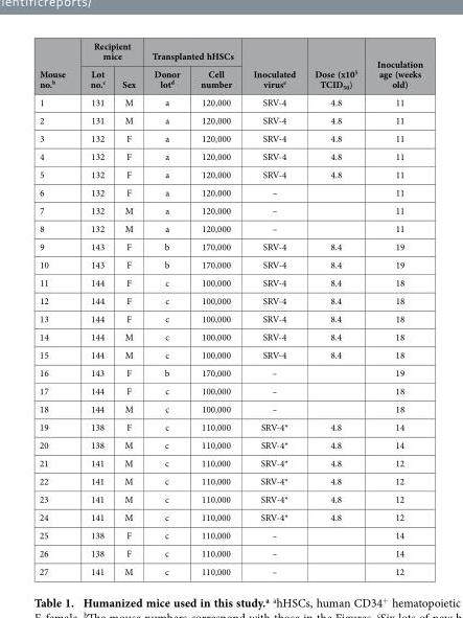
<table><thead><tr><td rowspan="2">Mouse no.<sup>b</sup></td><td colspan="2">Recipient mice</td><td colspan="2">Transplanted hHSCs</td><td rowspan="2">Inoculated virus<sup>e</sup></td><td rowspan="2">Dose (x10<sup>5</sup> TCID<sub>50</sub>)</td><td rowspan="2">Inoculation age (weeks old)</td></tr><tr><td>Lot no.<sup>c</sup></td><td>Sex</td><td>Donor lot<sup>d</sup></td><td>Cell number</td></tr></thead><tbody><tr><td>1</td><td>131</td><td>M</td><td>a</td><td>120,000</td><td>SRV-4</td><td>4.8</td><td>11</td></tr><tr><td>2</td><td>131</td><td>M</td><td>a</td><td>120,000</td><td>SRV-4</td><td>4.8</td><td>11</td></tr><tr><td>3</td><td>132</td><td>F</td><td>a</td><td>120,000</td><td>SRV-4</td><td>4.8</td><td>11</td></tr><tr><td>4</td><td>132</td><td>F</td><td>a</td><td>120,000</td><td>SRV-4</td><td>4.8</td><td>11</td></tr><tr><td>5</td><td>132</td><td>F</td><td>a</td><td>120,000</td><td>SRV-4</td><td>4.8</td><td>11</td></tr><tr><td>6</td><td>132</td><td>F</td><td>a</td><td>120,000</td><td>–</td><td></td><td>11</td></tr><tr><td>7</td><td>132</td><td>M</td><td>a</td><td>120,000</td><td>–</td><td></td><td>11</td></tr><tr><td>8</td><td>132</td><td>M</td><td>a</td><td>120,000</td><td>–</td><td></td><td>11</td></tr><tr><td>9</td><td>143</td><td>F</td><td>b</td><td>170,000</td><td>SRV-4</td><td>8.4</td><td>19</td></tr><tr><td>10</td><td>143</td><td>F</td><td>b</td><td>170,000</td><td>SRV-4</td><td>8.4</td><td>19</td></tr><tr><td>11</td><td>144</td><td>F</td><td>c</td><td>100,000</td><td>SRV-4</td><td>8.4</td><td>18</td></tr><tr><td>12</td><td>144</td><td>F</td><td>c</td><td>100,000</td><td>SRV-4</td><td>8.4</td><td>18</td></tr><tr><td>13</td><td>144</td><td>F</td><td>c</td><td>100,000</td><td>SRV-4</td><td>8.4</td><td>18</td></tr><tr><td>14</td><td>144</td><td>M</td><td>c</td><td>100,000</td><td>SRV-4</td><td>8.4</td><td>18</td></tr><tr><td>15</td><td>144</td><td>M</td><td>c</td><td>100,000</td><td>SRV-4</td><td>8.4</td><td>18</td></tr><tr><td>16</td><td>143</td><td>F</td><td>b</td><td>170,000</td><td>–</td><td></td><td>19</td></tr><tr><td>17</td><td>144</td><td>F</td><td>c</td><td>100,000</td><td>–</td><td></td><td>18</td></tr><tr><td>18</td><td>144</td><td>M</td><td>c</td><td>100,000</td><td>–</td><td></td><td>18</td></tr><tr><td>19</td><td>138</td><td>F</td><td>c</td><td>110,000</td><td>SRV-4*</td><td>4.8</td><td>14</td></tr><tr><td>20</td><td>138</td><td>M</td><td>c</td><td>110,000</td><td>SRV-4*</td><td>4.8</td><td>14</td></tr><tr><td>21</td><td>141</td><td>M</td><td>c</td><td>110,000</td><td>SRV-4*</td><td>4.8</td><td>12</td></tr><tr><td>22</td><td>141</td><td>M</td><td>c</td><td>110,000</td><td>SRV-4*</td><td>4.8</td><td>12</td></tr><tr><td>23</td><td>141</td><td>M</td><td>c</td><td>110,000</td><td>SRV-4*</td><td>4.8</td><td>12</td></tr><tr><td>24</td><td>141</td><td>M</td><td>c</td><td>110,000</td><td>SRV-4*</td><td>4.8</td><td>12</td></tr><tr><td>25</td><td>138</td><td>F</td><td>c</td><td>110,000</td><td>–</td><td></td><td>14</td></tr><tr><td>26</td><td>138</td><td>F</td><td>c</td><td>110,000</td><td>–</td><td></td><td>14</td></tr><tr><td>27</td><td>141</td><td>M</td><td>c</td><td>110,000</td><td>–</td><td></td><td>12</td></tr></tbody></table>